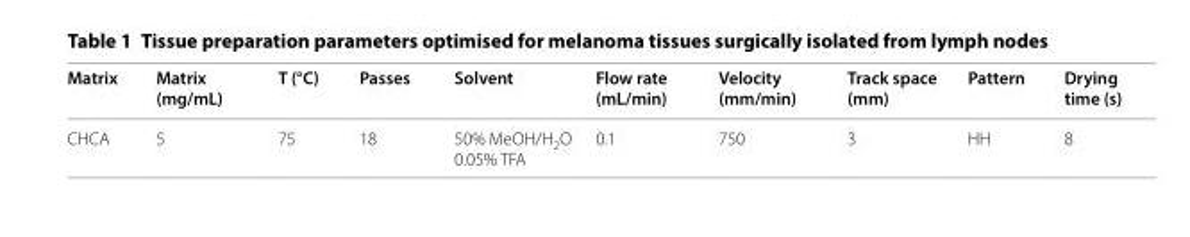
<table><thead><tr><td>Matrix</td><td>Matrix (mg/mL)</td><td>T (°C)</td><td>Passes</td><td>Solvent</td><td>Flow rate (mL/min)</td><td>Velocity (mm/min)</td><td>Track space (mm)</td><td>Pattern</td><td>Drying time (s)</td></tr></thead><tbody><tr><td>CHCA</td><td>5</td><td>75</td><td>18</td><td>50% MeOH/H<sub>2</sub>O 0.05% TFA</td><td>0.1</td><td>750</td><td>3</td><td>HH</td><td>8</td></tr></tbody></table>